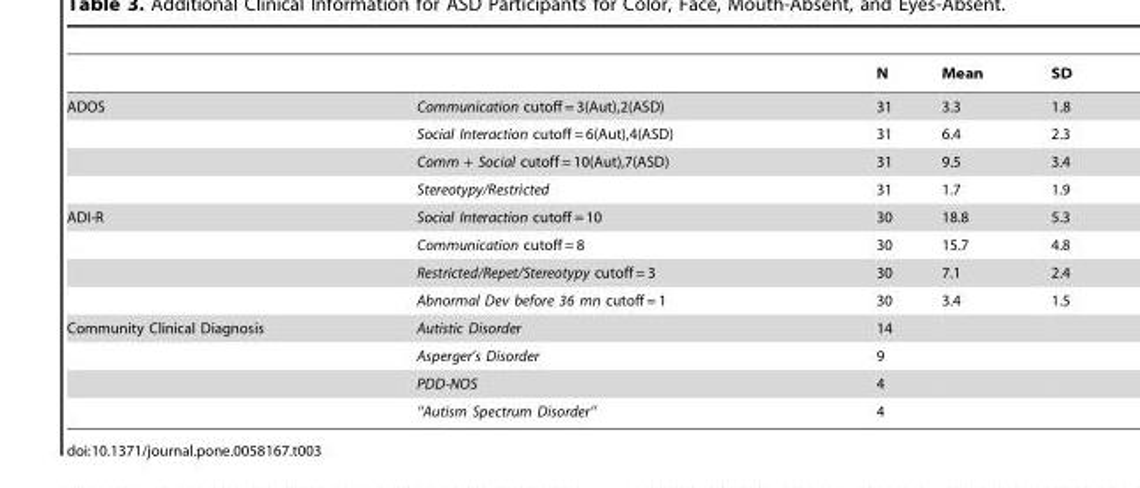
<table><thead><tr><td></td><td></td><td>N</td><td>Mean</td><td>SD</td></tr></thead><tbody><tr><td rowspan="4">ADOS</td><td>Communication cutoff = 3(Aut),2(ASD)</td><td>31</td><td>3.3</td><td>1.8</td></tr><tr><td>Social Interaction cutoff = 6(Aut),4(ASD)</td><td>31</td><td>6.4</td><td>2.3</td></tr><tr><td>Comm + Social cutoff = 10(Aut),7(ASD)</td><td>31</td><td>9.5</td><td>3.4</td></tr><tr><td>Stereotypy/Restricted</td><td>31</td><td>1.7</td><td>1.9</td></tr><tr><td rowspan="4">ADI-R</td><td>Social Interaction cutoff = 10</td><td>30</td><td>18.8</td><td>5.3</td></tr><tr><td>Communication cutoff = 8</td><td>30</td><td>15.7</td><td>4.8</td></tr><tr><td>Restricted/Repet/Stereotypy cutoff = 3</td><td>30</td><td>7.1</td><td>2.4</td></tr><tr><td>Abnormal Dev before 36 mn cutoff = 1</td><td>30</td><td>3.4</td><td>1.5</td></tr><tr><td rowspan="4">Community Clinical Diagnosis</td><td>Autistic Disorder</td><td>14</td><td></td><td></td></tr><tr><td>Asperger’s Disorder</td><td>9</td><td></td><td></td></tr><tr><td>PDD-NOS</td><td>4</td><td></td><td></td></tr><tr><td>‘‘Autism Spectrum Disorder’’</td><td>4</td><td></td><td></td></tr></tbody></table>